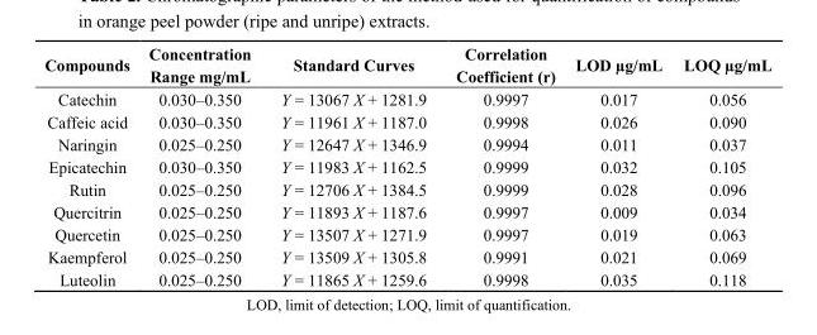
<table><thead><tr><td>Compounds</td><td>Concentration Range mg/mL</td><td>Standard Curves</td><td>Correlation Coefficient (r)</td><td>LOD µg/mL</td><td>LOQ µg/mL</td></tr></thead><tbody><tr><td>Catechin</td><td>0.030–0.350</td><td>Y = 13067 X + 1281.9</td><td>0.9997</td><td>0.017</td><td>0.056</td></tr><tr><td>Caffeic acid</td><td>0.030–0.350</td><td>Y = 11961 X + 1187.0</td><td>0.9998</td><td>0.026</td><td>0.090</td></tr><tr><td>Naringin</td><td>0.025–0.250</td><td>Y = 12647 X + 1346.9</td><td>0.9994</td><td>0.011</td><td>0.037</td></tr><tr><td>Epicatechin</td><td>0.030–0.350</td><td>Y = 11983 X + 1162.5</td><td>0.9999</td><td>0.032</td><td>0.105</td></tr><tr><td>Rutin</td><td>0.025–0.250</td><td>Y = 12706 X + 1384.5</td><td>0.9999</td><td>0.028</td><td>0.096</td></tr><tr><td>Quercitrin</td><td>0.025–0.250</td><td>Y = 11893 X + 1187.6</td><td>0.9997</td><td>0.009</td><td>0.034</td></tr><tr><td>Quercetin</td><td>0.025–0.250</td><td>Y = 13507 X + 1271.9</td><td>0.9997</td><td>0.019</td><td>0.063</td></tr><tr><td>Kaempferol</td><td>0.025–0.250</td><td>Y = 13509 X + 1305.8</td><td>0.9991</td><td>0.021</td><td>0.069</td></tr><tr><td>Luteolin</td><td>0.025–0.250</td><td>Y = 11865 X + 1259.6</td><td>0.9998</td><td>0.035</td><td>0.118</td></tr></tbody></table>